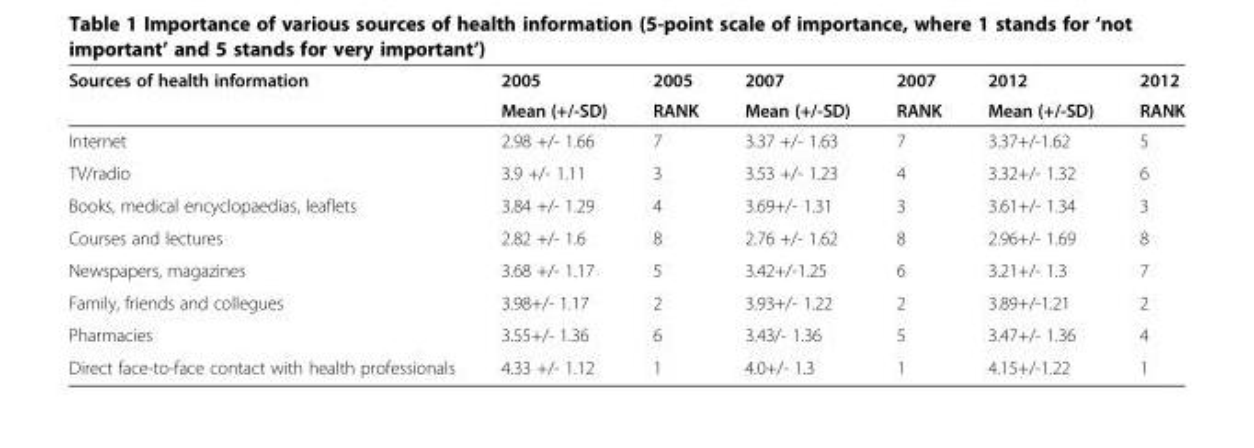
<table><thead><tr><td rowspan="2">Sources of health information</td><td rowspan="2">2005 Mean (+/-SD)</td><td rowspan="2">2005 RANK</td><td rowspan="2">2007 Mean (+/-SD)</td><td rowspan="2">2007 RANK</td><td rowspan="2">2012 Mean (+/-SD)</td><td rowspan="2">2012 RANK</td></tr><tr></tr></thead><tbody><tr><td>Internet</td><td>2.98 +/- 1.66</td><td>7</td><td>3.37 +/- 1.63</td><td>7</td><td>3.37+/-1.62</td><td>5</td></tr><tr><td>TV/radio</td><td>3.9 +/- 1.11</td><td>3</td><td>3.53 +/- 1.23</td><td>4</td><td>3.32+/- 1.32</td><td>6</td></tr><tr><td>Books, medical encyclopaedias, leaflets</td><td>3.84 +/- 1.29</td><td>4</td><td>3.69+/- 1.31</td><td>3</td><td>3.61+/- 1.34</td><td>3</td></tr><tr><td>Courses and lectures</td><td>2.82 +/- 1.6</td><td>8</td><td>2.76 +/- 1.62</td><td>8</td><td>2.96+/- 1.69</td><td>8</td></tr><tr><td>Newspapers, magazines</td><td>3.68 +/- 1.17</td><td>5</td><td>3.42+/-1.25</td><td>6</td><td>3.21+/- 1.3</td><td>7</td></tr><tr><td>Family, friends and collegues</td><td>3.98+/- 1.17</td><td>2</td><td>3.93+/- 1.22</td><td>2</td><td>3.89+/-1.21</td><td>2</td></tr><tr><td>Pharmacies</td><td>3.55+/- 1.36</td><td>6</td><td>3.43/- 1.36</td><td>5</td><td>3.47+/- 1.36</td><td>4</td></tr><tr><td>Direct face-to-face contact with health professionals</td><td>4.33 +/- 1.12</td><td>1</td><td>4.0+/- 1.3</td><td>1</td><td>4.15+/-1.22</td><td>1</td></tr></tbody></table>